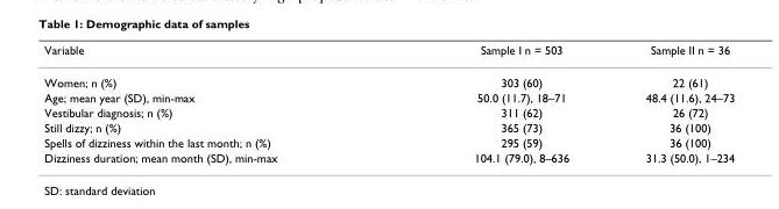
<table><thead><tr><td>Variable</td><td>Sample I n = 503</td><td>Sample II n = 36</td></tr></thead><tbody><tr><td>Women; n (%)</td><td>303 (60)</td><td>22 (61)</td></tr><tr><td>Age; mean year (SD), min-max</td><td>50.0 (11.7), 18–71</td><td>48.4 (11.6), 24–73</td></tr><tr><td>Vestibular diagnosis; n (%)</td><td>311 (62)</td><td>26 (72)</td></tr><tr><td>Still dizzy; n (%)</td><td>365 (73)</td><td>36 (100)</td></tr><tr><td>Spells of dizziness within the last month; n (%)</td><td>295 (59)</td><td>36 (100)</td></tr><tr><td>Dizziness duration; mean month (SD), min-max</td><td>104.1 (79.0), 8–636</td><td>31.3 (50.0), 1–234</td></tr></tbody></table>